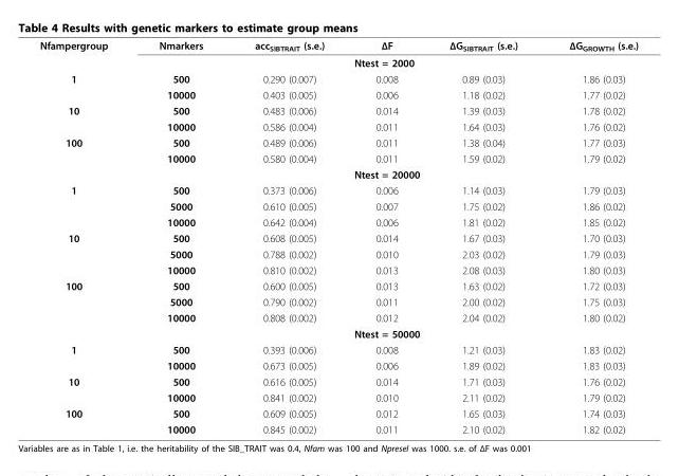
<table><tbody><tr><td rowspan="2">Nfampergroup</td><td>Nmarkers</td><td>acc<sub>SIBTRAIT</sub> (s.e.)</td><td>ΔF</td><td>ΔG<sub>SIBTRAIT</sub> (s.e.)</td><td>ΔG<sub>GROWTH</sub> (s.e.)</td></tr><tr><td></td><td></td><td colspan="2">Ntest = 2000</td><td></td></tr><tr><td rowspan="2">1</td><td>500</td><td>0.290 (0.007)</td><td>0.008</td><td>0.89 (0.03)</td><td>1.86 (0.03)</td></tr><tr><td>10000</td><td>0.403 (0.005)</td><td>0.006</td><td>1.18 (0.02)</td><td>1.77 (0.02)</td></tr><tr><td rowspan="2">10</td><td>500</td><td>0.483 (0.006)</td><td>0.014</td><td>1.39 (0.03)</td><td>1.78 (0.02)</td></tr><tr><td>10000</td><td>0.586 (0.004)</td><td>0.011</td><td>1.64 (0.03)</td><td>1.76 (0.02)</td></tr><tr><td rowspan="3">100</td><td>500</td><td>0.489 (0.006)</td><td>0.011</td><td>1.38 (0.04)</td><td>1.77 (0.03)</td></tr><tr><td>10000</td><td>0.580 (0.004)</td><td>0.011</td><td>1.59 (0.02)</td><td>1.79 (0.02)</td></tr><tr><td></td><td></td><td colspan="2">Ntest = 20000</td><td></td></tr><tr><td rowspan="3">1</td><td>500</td><td>0.373 (0.006)</td><td>0.006</td><td>1.14 (0.03)</td><td>1.79 (0.03)</td></tr><tr><td>5000</td><td>0.610 (0.005)</td><td>0.007</td><td>1.75 (0.02)</td><td>1.86 (0.02)</td></tr><tr><td>10000</td><td>0.642 (0.004)</td><td>0.006</td><td>1.81 (0.02)</td><td>1.85 (0.02)</td></tr><tr><td rowspan="3">10</td><td>500</td><td>0.608 (0.005)</td><td>0.014</td><td>1.67 (0.03)</td><td>1.70 (0.03)</td></tr><tr><td>5000</td><td>0.788 (0.002)</td><td>0.010</td><td>2.03 (0.02)</td><td>1.79 (0.03)</td></tr><tr><td>10000</td><td>0.810 (0.002)</td><td>0.013</td><td>2.08 (0.03)</td><td>1.80 (0.03)</td></tr><tr><td rowspan="4">100</td><td>500</td><td>0.600 (0.005)</td><td>0.013</td><td>1.63 (0.02)</td><td>1.72 (0.03)</td></tr><tr><td>5000</td><td>0.790 (0.002)</td><td>0.011</td><td>2.00 (0.02)</td><td>1.75 (0.03)</td></tr><tr><td>10000</td><td>0.808 (0.002)</td><td>0.012</td><td>2.04 (0.02)</td><td>1.80 (0.02)</td></tr><tr><td></td><td></td><td colspan="2">Ntest = 50000</td><td></td></tr><tr><td rowspan="2">1</td><td>500</td><td>0.393 (0.006)</td><td>0.008</td><td>1.21 (0.03)</td><td>1.83 (0.02)</td></tr><tr><td>10000</td><td>0.673 (0.005)</td><td>0.006</td><td>1.89 (0.02)</td><td>1.83 (0.03)</td></tr><tr><td rowspan="2">10</td><td>500</td><td>0.616 (0.005)</td><td>0.014</td><td>1.71 (0.03)</td><td>1.76 (0.02)</td></tr><tr><td>10000</td><td>0.841 (0.002)</td><td>0.010</td><td>2.11 (0.02)</td><td>1.79 (0.02)</td></tr><tr><td rowspan="2">100</td><td>500</td><td>0.609 (0.005)</td><td>0.012</td><td>1.65 (0.03)</td><td>1.74 (0.03)</td></tr><tr><td>10000</td><td>0.845 (0.002)</td><td>0.011</td><td>2.10 (0.02)</td><td>1.82 (0.02)</td></tr></tbody></table>